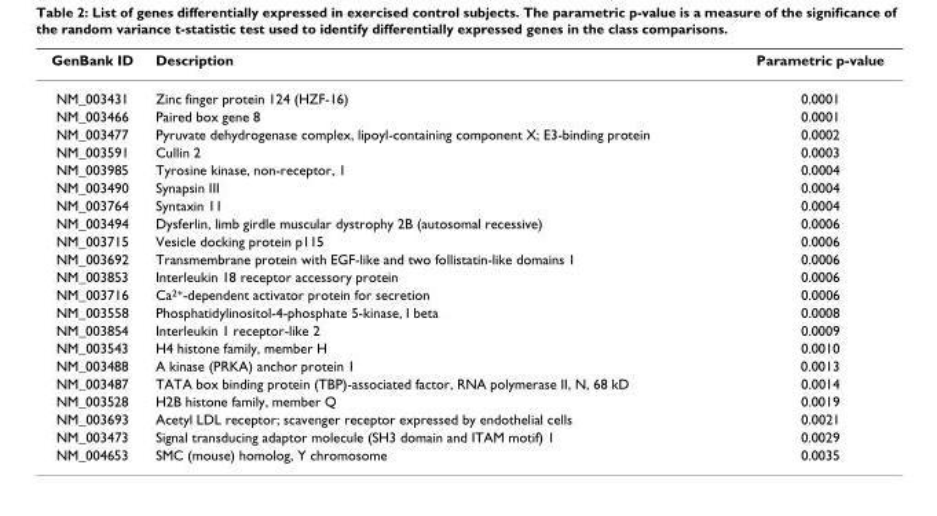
<table><thead><tr><td>GenBank ID</td><td>Description</td><td>Parametric p-value</td></tr></thead><tbody><tr><td>NM_003431</td><td>Zinc finger protein 124 (HZF-16)</td><td>0.0001</td></tr><tr><td>NM_003466</td><td>Paired box gene 8</td><td>0.0001</td></tr><tr><td>NM_003477</td><td>Pyruvate dehydrogenase complex, lipoyl-containing component X; E3-binding protein</td><td>0.0002</td></tr><tr><td>NM_003591</td><td>Cullin 2</td><td>0.0003</td></tr><tr><td>NM_003985</td><td>Tyrosine kinase, non-receptor, 1</td><td>0.0004</td></tr><tr><td>NM_003490</td><td>Synapsin III</td><td>0.0004</td></tr><tr><td>NM_003764</td><td>Syntaxin 11</td><td>0.0004</td></tr><tr><td>NM_003494</td><td>Dysferlin, limb girdle muscular dystrophy 2B (autosomal recessive)</td><td>0.0006</td></tr><tr><td>NM_003715</td><td>Vesicle docking protein p115</td><td>0.0006</td></tr><tr><td>NM_003692</td><td>Transmembrane protein with EGF-like and two follistatin-like domains 1</td><td>0.0006</td></tr><tr><td>NM_003853</td><td>Interleukin 18 receptor accessory protein</td><td>0.0006</td></tr><tr><td>NM_003716</td><td>Ca2+-dependent activator protein for secretion</td><td>0.0006</td></tr><tr><td>NM_003558</td><td>Phosphatidylinositol-4-phosphate 5-kinase, I beta</td><td>0.0008</td></tr><tr><td>NM_003854</td><td>Interleukin 1 receptor-like 2</td><td>0.0009</td></tr><tr><td>NM_003543</td><td>H4 histone family, member H</td><td>0.0010</td></tr><tr><td>NM_003488</td><td>A kinase (PRKA) anchor protein 1</td><td>0.0013</td></tr><tr><td>NM_003487</td><td>TATA box binding protein (TBP)-associated factor, RNA polymerase II, N, 68 kD</td><td>0.0014</td></tr><tr><td>NM_003528</td><td>H2B histone family, member Q</td><td>0.0019</td></tr><tr><td>NM_003693</td><td>Acetyl LDL receptor; scavenger receptor expressed by endothelial cells</td><td>0.0021</td></tr><tr><td>NM_003473</td><td>Signal transducing adaptor molecule (SH3 domain and ITAM motif) 1</td><td>0.0029</td></tr><tr><td>NM_004653</td><td>SMC (mouse) homolog, Y chromosome</td><td>0.0035</td></tr></tbody></table>